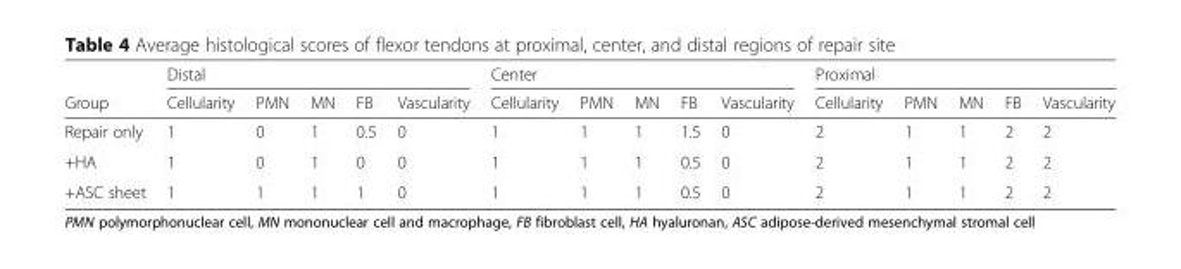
<table><thead><tr><td rowspan="2">Group</td><td colspan="5">Distal</td><td colspan="5">Center</td><td colspan="5">Proximal</td></tr><tr><td>Cellularity</td><td>PMN</td><td>MN</td><td>FB</td><td>Vascularity</td><td>Cellularity</td><td>PMN</td><td>MN</td><td>FB</td><td>Vascularity</td><td>Cellularity</td><td>PMN</td><td>MN</td><td>FB</td><td>Vascularity</td></tr></thead><tbody><tr><td>Repair only</td><td>1</td><td>0</td><td>1</td><td>0.5</td><td>0</td><td>1</td><td>1</td><td>1</td><td>1.5</td><td>0</td><td>2</td><td>1</td><td>1</td><td>2</td><td>2</td></tr><tr><td>+HA</td><td>1</td><td>0</td><td>1</td><td>0</td><td>0</td><td>1</td><td>1</td><td>1</td><td>0.5</td><td>0</td><td>2</td><td>1</td><td>1</td><td>2</td><td>2</td></tr><tr><td>+ASC sheet</td><td>1</td><td>1</td><td>1</td><td>1</td><td>0</td><td>1</td><td>1</td><td>1</td><td>0.5</td><td>0</td><td>2</td><td>1</td><td>1</td><td>2</td><td>2</td></tr></tbody></table>